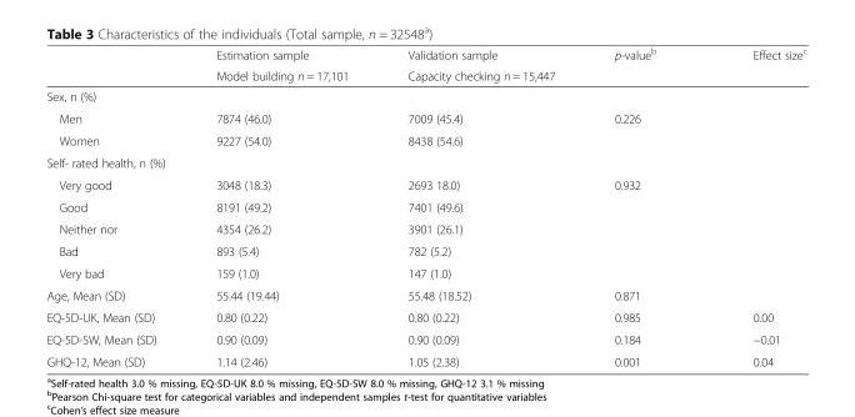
<table><thead><tr><td rowspan="2"></td><td rowspan="2">Estimation sample Model building n = 17,101</td><td rowspan="2">Validation sample Capacity checking n = 15,447</td><td rowspan="2">p-value<sup>b</sup></td><td rowspan="2">Effect size<sup>c</sup></td></tr><tr></tr></thead><tbody><tr><td colspan="5">Sex, n (%)</td></tr><tr><td>Men</td><td>7874 (46.0)</td><td>7009 (45.4)</td><td>0.226</td><td></td></tr><tr><td>Women</td><td>9227 (54.0)</td><td>8438 (54.6)</td><td></td><td></td></tr><tr><td colspan="5">Self- rated health, n (%)</td></tr><tr><td>Very good</td><td>3048 (18.3)</td><td>2693 18.0)</td><td>0.932</td><td></td></tr><tr><td>Good</td><td>8191 (49.2)</td><td>7401 (49.6)</td><td></td><td></td></tr><tr><td>Neither nor</td><td>4354 (26.2)</td><td>3901 (26.1)</td><td></td><td></td></tr><tr><td>Bad</td><td>893 (5.4)</td><td>782 (5.2)</td><td></td><td></td></tr><tr><td>Very bad</td><td>159 (1.0)</td><td>147 (1.0)</td><td></td><td></td></tr><tr><td>Age, Mean (SD)</td><td>55.44 (19.44)</td><td>55.48 (18.52)</td><td>0.871</td><td></td></tr><tr><td>EQ-5D-UK, Mean (SD)</td><td>0.80 (0.22)</td><td>0.80 (0.22)</td><td>0.985</td><td>0.00</td></tr><tr><td>EQ-5D-SW, Mean (SD)</td><td>0.90 (0.09)</td><td>0.90 (0.09)</td><td>0.184</td><td>−0.01</td></tr><tr><td>GHQ-12, Mean (SD)</td><td>1.14 (2.46)</td><td>1.05 (2.38)</td><td>0.001</td><td>0.04</td></tr></tbody></table>